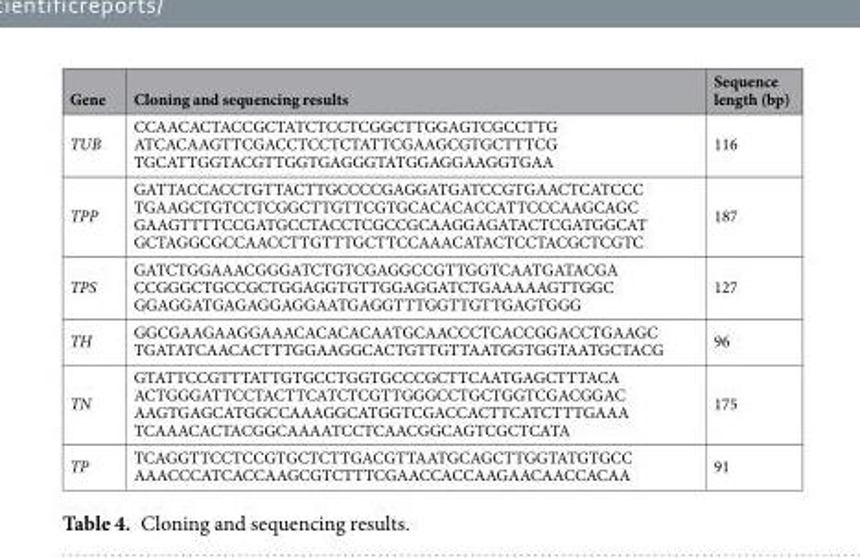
<table><thead><tr><td>Gene</td><td>Cloning and sequencing results</td><td>Sequence length (bp)</td></tr></thead><tbody><tr><td>TUB</td><td>CCAACACTACCGCTATCTCCTCGGCTTGGAGTCGCCTTG ATCACAAGTTCGACCTCCTCTATTCGAAGCGTGCTTTCG TGCATTGGTACGTTGGTGAGGGTATGGAGGAAGGTGAA</td><td>116</td></tr><tr><td>TPP</td><td>GATTACCACCTGTTACTTGCCCCGAGGATGATCCGTGAACTCATCCC TGAAGCTGTCCTCGGCTTGTTCGTGCACACACCATTCCCAAGCAGC GAAGTTTTCCGATGCCTACCTCGCCGCAAGGAGATACTCGATGGCAT GCTAGGCGCCAACCTTGTTTGCTTCCAAACATACTCCTACGCTCGTC</td><td>187</td></tr><tr><td>TPS</td><td>GATCTGGAAACGGGATCTGTCGAGGCCGTTGGTCAATGATACGA CCGGGCTGCCGCTGGAGGTGTTGGAGGATCTGAAAAAGTTGGC GGAGGATGAGAGGAGGAATGAGGTTTGGTTGTTGAGTGGG</td><td>127</td></tr><tr><td>TH</td><td>GGCGAAGAAGGAAACACACACAATGCAACCCTCACCGGACCTGAAGC TGATATCAACACTTTGGAAGGCACTGTTGTTAATGGTGGTAATGCTACG</td><td>96</td></tr><tr><td>TN</td><td>GTATTCCGTTTATTGTGCCTGGTGCCCGCTTCAATGAGCTTTACA ACTGGGATTCCTACTTCATCTCGTTGGGCCTGCTGGTCGACGGAC AAGTGAGCATGGCCAAAGGCATGGTCGACCACTTCATCTTTGAAA TCAAACACTACGGCAAAATCCTCAACGGCAGTCGCTCATA</td><td>175</td></tr><tr><td>TP</td><td>TCAGGTTCCTCCGTGCTCTTGACGTTAATGCAGCTTGGTATGTGCC AAACCCATCACCAAGCGTCTTTCGAACCACCAAGAACAACCACAA</td><td>91</td></tr></tbody></table>